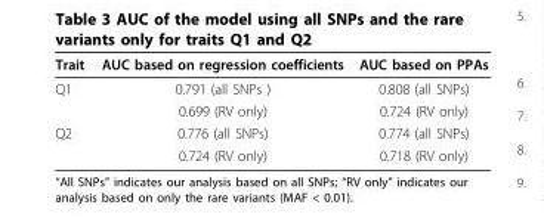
<table><thead><tr><td>Trait</td><td>AUC based on regression coefficients</td><td>AUC based on PPAs</td></tr></thead><tbody><tr><td rowspan="2">Q1</td><td>0.791 (all SNPs )</td><td>0.808 (all SNPs)</td></tr><tr><td>0.699 (RV only)</td><td>0.724 (RV only)</td></tr><tr><td rowspan="2">Q2</td><td>0.776 (all SNPs)</td><td>0.774 (all SNPs)</td></tr><tr><td>0.724 (RV only)</td><td>0.718 (RV only)</td></tr></tbody></table>